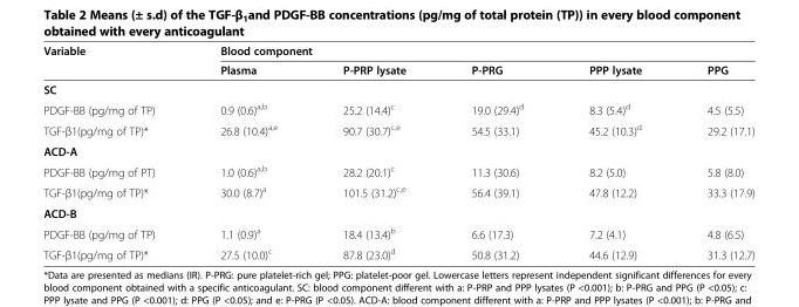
<table><thead><tr><td rowspan="2">Variable</td><td colspan="5">Blood component</td></tr><tr><td>Plasma</td><td>P-PRP lysate</td><td>P-PRG</td><td>PPP lysate</td><td>PPG</td></tr></thead><tbody><tr><td colspan="6">SC</td></tr><tr><td>PDGF-BB (pg/mg of TP)</td><td>0.9 (0.6)<sup>a,b</sup></td><td>25.2 (14.4)<sup>c</sup></td><td>19.0 (29.4)<sup>d</sup></td><td>8.3 (5.4)<sup>d</sup></td><td>4.5 (5.5)</td></tr><tr><td>TGF-β1(pg/mg of TP)*</td><td>26.8 (10.4)<sup>a,e</sup></td><td>90.7 (30.7)<sup>c,e</sup></td><td>54.5 (33.1)</td><td>45.2 (10.3)<sup>d</sup></td><td>29.2 (17.1)</td></tr><tr><td colspan="6">ACD-A</td></tr><tr><td>PDGF-BB (pg/mg of PT)</td><td>1.0 (0.6)<sup>a,b</sup></td><td>28.2 (20.1)<sup>c</sup></td><td>11.3 (30.6)</td><td>8.2 (5.0)</td><td>5.8 (8.0)</td></tr><tr><td>TGF-β1(pg/mg of TP)*</td><td>30.0 (8.7)<sup>a</sup></td><td>101.5 (31.2)<sup>c,e</sup></td><td>56.4 (39.1)</td><td>47.8 (12.2)</td><td>33.3 (17.9)</td></tr><tr><td colspan="6">ACD-B</td></tr><tr><td>PDGF-BB (pg/mg of TP)</td><td>1.1 (0.9)<sup>a</sup></td><td>18.4 (13.4)<sup>b</sup></td><td>6.6 (17.3)</td><td>7.2 (4.1)</td><td>4.8 (6.5)</td></tr><tr><td>TGF-β1(pg/mg of TP)*</td><td>27.5 (10.0)<sup>c</sup></td><td>87.8 (23.0)<sup>d</sup></td><td>50.8 (31.2)</td><td>44.6 (12.9)</td><td>31.3 (12.7)</td></tr></tbody></table>